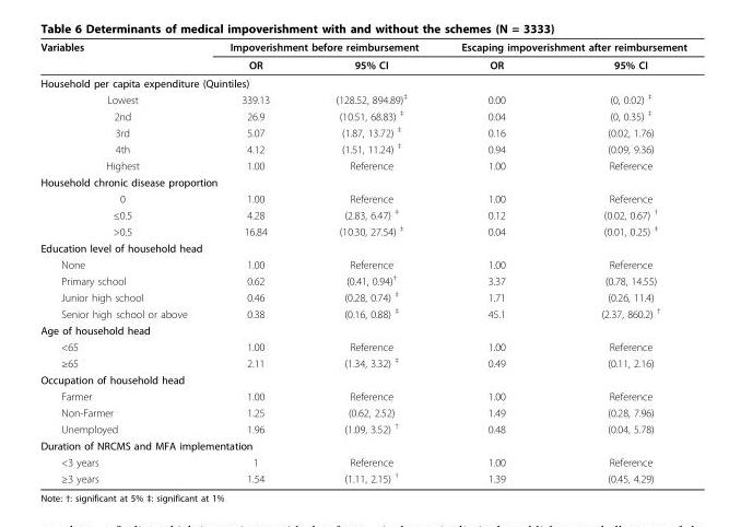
<table><thead><tr><td rowspan="2">Variables</td><td colspan="2">Impoverishment before reimbursement</td><td colspan="2">Escaping impoverishment after reimbursement</td></tr><tr><td>OR</td><td>95% CI</td><td>OR</td><td>95% CI</td></tr></thead><tbody><tr><td colspan="5">Household per capita expenditure (Quintiles)</td></tr><tr><td>Lowest</td><td>339.13</td><td>(128.52, 894.89)<sup>‡</sup></td><td>0.00</td><td>(0, 0.02) <sup>‡</sup></td></tr><tr><td>2nd</td><td>26.9</td><td>(10.51, 68.83) <sup>‡</sup></td><td>0.04</td><td>(0, 0.35) <sup>‡</sup></td></tr><tr><td>3rd</td><td>5.07</td><td>(1.87, 13.72) <sup>‡</sup></td><td>0.16</td><td>(0.02, 1.76)</td></tr><tr><td>4th</td><td>4.12</td><td>(1.51, 11.24) <sup>‡</sup></td><td>0.94</td><td>(0.09, 9.36)</td></tr><tr><td>Highest</td><td>1.00</td><td>Reference</td><td>1.00</td><td>Reference</td></tr><tr><td colspan="5">Household chronic disease proportion</td></tr><tr><td>0</td><td>1.00</td><td>Reference</td><td>1.00</td><td>Reference</td></tr><tr><td>≤0.5</td><td>4.28</td><td>(2.83, 6.47) <sup>‡</sup></td><td>0.12</td><td>(0.02, 0.67) <sup>†</sup></td></tr><tr><td>&gt;0.5</td><td>16.84</td><td>(10.30, 27.54) <sup>‡</sup></td><td>0.04</td><td>(0.01, 0.25) <sup>‡</sup></td></tr><tr><td colspan="5">Education level of household head</td></tr><tr><td>None</td><td>1.00</td><td>Reference</td><td>1.00</td><td>Reference</td></tr><tr><td>Primary school</td><td>0.62</td><td>(0.41, 0.94)<sup>†</sup></td><td>3.37</td><td>(0.78, 14.55)</td></tr><tr><td>Junior high school</td><td>0.46</td><td>(0.28, 0.74) <sup>‡</sup></td><td>1.71</td><td>(0.26, 11.4)</td></tr><tr><td>Senior high school or above</td><td>0.38</td><td>(0.16, 0.88) <sup>‡</sup></td><td>45.1</td><td>(2.37, 860.2) <sup>†</sup></td></tr><tr><td colspan="5">Age of household head</td></tr><tr><td>&lt;65</td><td>1.00</td><td>Reference</td><td>1.00</td><td>Reference</td></tr><tr><td>≥65</td><td>2.11</td><td>(1.34, 3.32) <sup>‡</sup></td><td>0.49</td><td>(0.11, 2.16)</td></tr><tr><td colspan="5">Occupation of household head</td></tr><tr><td>Farmer</td><td>1.00</td><td>Reference</td><td>1.00</td><td>Reference</td></tr><tr><td>Non-Farmer</td><td>1.25</td><td>(0.62, 2.52)</td><td>1.49</td><td>(0.28, 7.96)</td></tr><tr><td>Unemployed</td><td>1.96</td><td>(1.09, 3.52) <sup>†</sup></td><td>0.48</td><td>(0.04, 5.78)</td></tr><tr><td colspan="5">Duration of NRCMS and MFA implementation</td></tr><tr><td>&lt;3 years</td><td>1</td><td>Reference</td><td>1.00</td><td>Reference</td></tr><tr><td>≥3 years</td><td>1.54</td><td>(1.11, 2.15) <sup>†</sup></td><td>1.39</td><td>(0.45, 4.29)</td></tr></tbody></table>